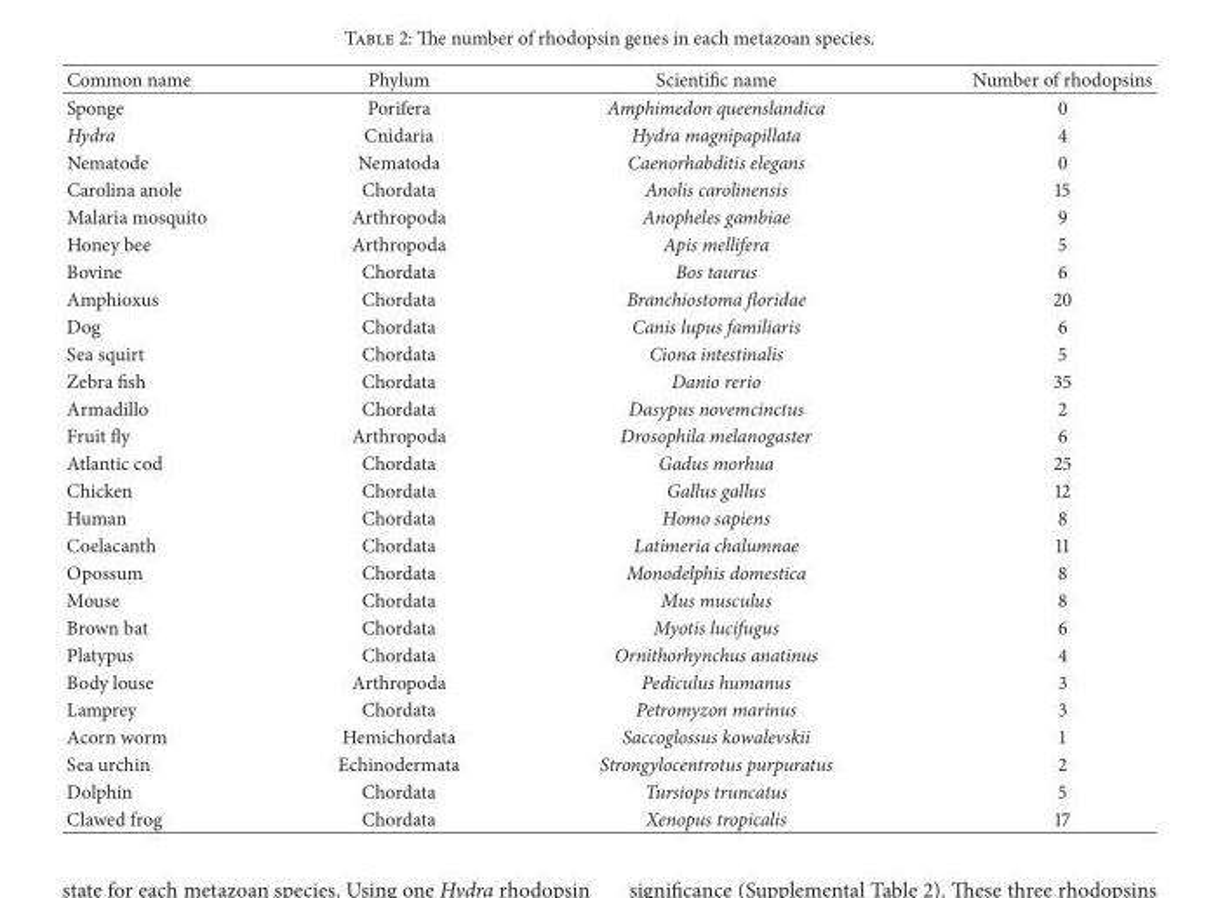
<table><thead><tr><td>Common name</td><td>Phylum</td><td>Scientific name</td><td>Number of rhodopsins</td></tr></thead><tbody><tr><td>Sponge</td><td>Porifera</td><td>Amphimedon queenslandica</td><td>0</td></tr><tr><td>Hydra</td><td>Cnidaria</td><td>Hydra magnipapillata</td><td>4</td></tr><tr><td>Nematode</td><td>Nematoda</td><td>Caenorhabditis elegans</td><td>0</td></tr><tr><td>Carolina anole</td><td>Chordata</td><td>Anolis carolinensis</td><td>15</td></tr><tr><td>Malaria mosquito</td><td>Arthropoda</td><td>Anopheles gambiae</td><td>9</td></tr><tr><td>Honey bee</td><td>Arthropoda</td><td>Apis mellifera</td><td>5</td></tr><tr><td>Bovine</td><td>Chordata</td><td>Bos taurus</td><td>6</td></tr><tr><td>Amphioxus</td><td>Chordata</td><td>Branchiostoma floridae</td><td>20</td></tr><tr><td>Dog</td><td>Chordata</td><td>Canis lupus familiaris</td><td>6</td></tr><tr><td>Sea squirt</td><td>Chordata</td><td>Ciona intestinalis</td><td>5</td></tr><tr><td>Zebra fish</td><td>Chordata</td><td>Danio rerio</td><td>35</td></tr><tr><td>Armadillo</td><td>Chordata</td><td>Dasypus novemcinctus</td><td>2</td></tr><tr><td>Fruit fly</td><td>Arthropoda</td><td>Drosophila melanogaster</td><td>6</td></tr><tr><td>Atlantic cod</td><td>Chordata</td><td>Gadus morhua</td><td>25</td></tr><tr><td>Chicken</td><td>Chordata</td><td>Gallus gallus</td><td>12</td></tr><tr><td>Human</td><td>Chordata</td><td>Homo sapiens</td><td>8</td></tr><tr><td>Coelacanth</td><td>Chordata</td><td>Latimeria chalumnae</td><td>11</td></tr><tr><td>Opossum</td><td>Chordata</td><td>Monodelphis domestica</td><td>8</td></tr><tr><td>Mouse</td><td>Chordata</td><td>Mus musculus</td><td>8</td></tr><tr><td>Brown bat</td><td>Chordata</td><td>Myotis lucifugus</td><td>6</td></tr><tr><td>Platypus</td><td>Chordata</td><td>Ornithorhynchus anatinus</td><td>4</td></tr><tr><td>Body louse</td><td>Arthropoda</td><td>Pediculus humanus</td><td>3</td></tr><tr><td>Lamprey</td><td>Chordata</td><td>Petromyzon marinus</td><td>3</td></tr><tr><td>Acorn worm</td><td>Hemichordata</td><td>Saccoglossus kowalevskii</td><td>1</td></tr><tr><td>Sea urchin</td><td>Echinodermata</td><td>Strongylocentrotus purpuratus</td><td>2</td></tr><tr><td>Dolphin</td><td>Chordata</td><td>Tursiops truncatus</td><td>5</td></tr><tr><td>Clawed frog</td><td>Chordata</td><td>Xenopus tropicalis</td><td>17</td></tr></tbody></table>